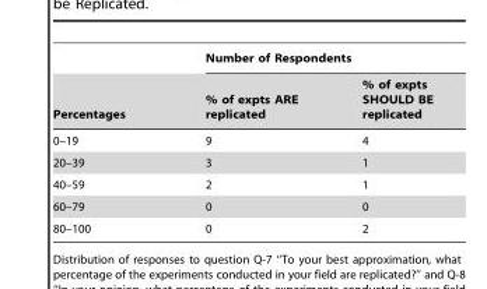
<table><thead><tr><td rowspan="2">Percentages</td><td colspan="2">Number of Respondents</td></tr><tr><td>% of expts ARE replicated</td><td>% of expts SHOULD BE replicated</td></tr></thead><tbody><tr><td>0–19</td><td>9</td><td>4</td></tr><tr><td>20–39</td><td>3</td><td>1</td></tr><tr><td>40–59</td><td>2</td><td>1</td></tr><tr><td>60–79</td><td>0</td><td>0</td></tr><tr><td>80–100</td><td>0</td><td>2</td></tr></tbody></table>